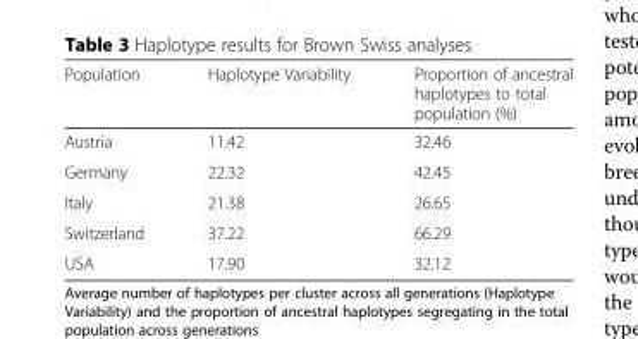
<table><thead><tr><td>Population</td><td>Haplotype Variability</td><td>Proportion of ancestral haplotypes to total population (%)</td></tr></thead><tbody><tr><td>Austria</td><td>11.42</td><td>32.46</td></tr><tr><td>Germany</td><td>22.32</td><td>42.45</td></tr><tr><td>Italy</td><td>21.38</td><td>26.65</td></tr><tr><td>Switzerland</td><td>37.22</td><td>66.29</td></tr><tr><td>USA</td><td>17.90</td><td>32.12</td></tr></tbody></table>